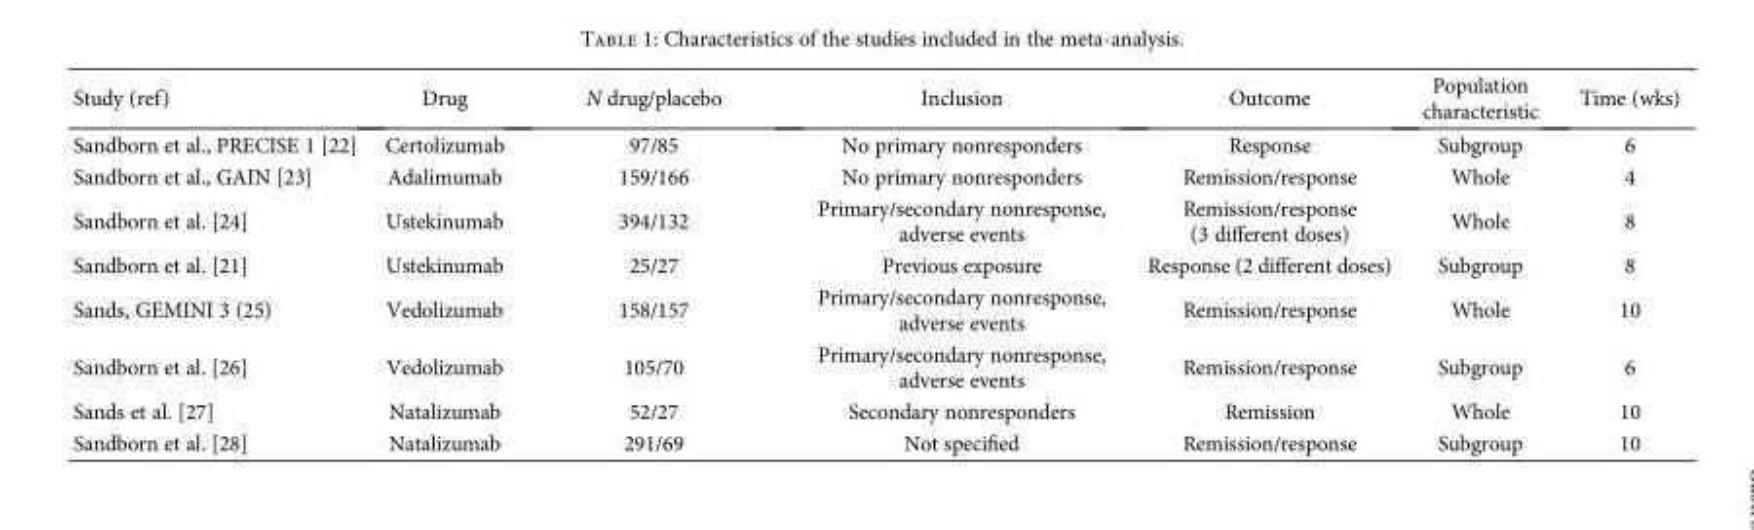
<table><thead><tr><td>Study (ref)</td><td>Drug</td><td>N drug/placebo</td><td>Inclusion</td><td>Outcome</td><td>Population characteristic</td><td>Time (wks)</td></tr></thead><tbody><tr><td>Sandborn et al., PRECISE 1 [22]</td><td>Certolizumab</td><td>97/85</td><td>No primary nonresponders</td><td>Response</td><td>Subgroup</td><td>6</td></tr><tr><td>Sandborn et al., GAIN [23]</td><td>Adalimumab</td><td>159/166</td><td>No primary nonresponders</td><td>Remission/response</td><td>Whole</td><td>4</td></tr><tr><td>Sandborn et al. [24]</td><td>Ustekinumab</td><td>394/132</td><td>Primary/secondary nonresponse, adverse events</td><td>Remission/response (3 different doses)</td><td>Whole</td><td>8</td></tr><tr><td>Sandborn et al. [21]</td><td>Ustekinumab</td><td>25/27</td><td>Previous exposure</td><td>Response (2 different doses)</td><td>Subgroup</td><td>8</td></tr><tr><td>Sands, GEMINI 3 (25)</td><td>Vedolizumab</td><td>158/157</td><td>Primary/secondary nonresponse, adverse events</td><td>Remission/response</td><td>Whole</td><td>10</td></tr><tr><td>Sandborn et al. [26]</td><td>Vedolizumab</td><td>105/70</td><td>Primary/secondary nonresponse, adverse events</td><td>Remission/response</td><td>Subgroup</td><td>6</td></tr><tr><td>Sands et al. [27]</td><td>Natalizumab</td><td>52/27</td><td>Secondary nonresponders</td><td>Remission</td><td>Whole</td><td>10</td></tr><tr><td>Sandborn et al. [28]</td><td>Natalizumab</td><td>291/69</td><td>Not specified</td><td>Remission/response</td><td>Subgroup</td><td>10</td></tr></tbody></table>